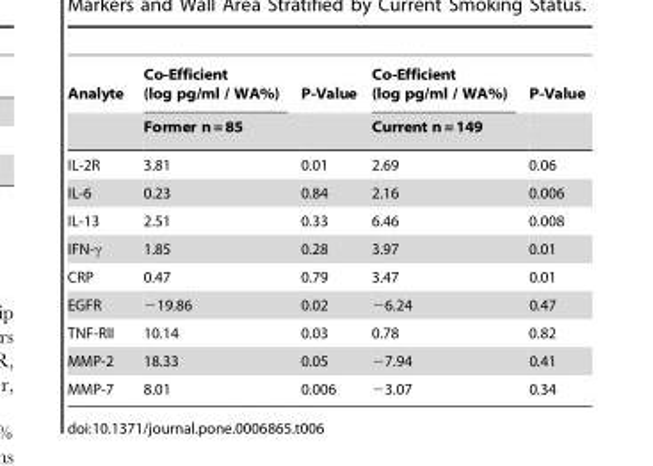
<table><thead><tr><td rowspan="2">Analyte</td><td rowspan="2">Co-Efficient (log pg/ml / WA%) Former n=85</td><td rowspan="2">P-Value</td><td rowspan="2">Co-Efficient (log pg/ml / WA%) Current n= 149</td><td rowspan="2">P-Value</td></tr><tr></tr></thead><tbody><tr><td>IL-2R</td><td>3.81</td><td>0.01</td><td>2.69</td><td>0.06</td></tr><tr><td>IL-6</td><td>0.23</td><td>0.84</td><td>2.16</td><td>0.006</td></tr><tr><td>IL-13</td><td>2.51</td><td>0.33</td><td>6.46</td><td>0.008</td></tr><tr><td>IFN-γ</td><td>1.85</td><td>0.28</td><td>3.97</td><td>0.01</td></tr><tr><td>CRP</td><td>0.47</td><td>0.79</td><td>3.47</td><td>0.01</td></tr><tr><td>EGFR</td><td>−19.86</td><td>0.02</td><td>−6.24</td><td>0.47</td></tr><tr><td>TNF-RII</td><td>10.14</td><td>0.03</td><td>0.78</td><td>0.82</td></tr><tr><td>MMP-2</td><td>18.33</td><td>0.05</td><td>−7.94</td><td>0.41</td></tr><tr><td>MMP-7</td><td>8.01</td><td>0.006</td><td>−3.07</td><td>0.34</td></tr></tbody></table>